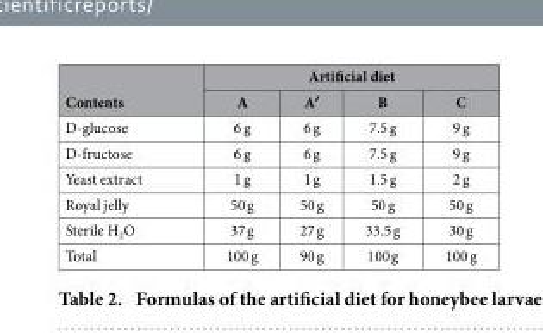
<table><thead><tr><td rowspan="2">Contents</td><td colspan="4">Artificial diet</td></tr><tr><td>A</td><td>A′</td><td>B</td><td>C</td></tr></thead><tbody><tr><td>D-glucose</td><td>6 g</td><td>6 g</td><td>7.5 g</td><td>9 g</td></tr><tr><td>D-fructose</td><td>6 g</td><td>6 g</td><td>7.5 g</td><td>9 g</td></tr><tr><td>Yeast extract</td><td>1 g</td><td>1 g</td><td>1.5 g</td><td>2 g</td></tr><tr><td>Royal jelly</td><td>50 g</td><td>50 g</td><td>50 g</td><td>50 g</td></tr><tr><td>Sterile H<sub>2</sub>O</td><td>37 g</td><td>27 g</td><td>33.5 g</td><td>30 g</td></tr><tr><td>Total</td><td>100 g</td><td>90 g</td><td>100 g</td><td>100 g</td></tr></tbody></table>